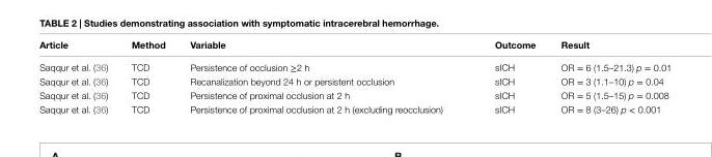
<table><thead><tr><td>Article</td><td>Method</td><td>variable</td><td>Outcome</td><td>Result</td></tr></thead><tbody><tr><td>Saqqur et al. (36)</td><td>TCD</td><td>Persistence of occlusion ≥2 h</td><td>sICH</td><td>OR = 6 (1.5–21.3) p = 0.01</td></tr><tr><td>Saqqur et al. (36)</td><td>TCD</td><td>Recanalization beyond 24 h or persistent occlusion</td><td>sICH</td><td>OR = 3 (1.1–10) p = 0.04</td></tr><tr><td>Saqqur et al. (36)</td><td>TCD</td><td>Persistence of proximal occlusion at 2 h</td><td>sICH</td><td>OR = 5 (1.5–15) p = 0.008</td></tr><tr><td>Saqqur et al. (36)</td><td>TCD</td><td>Persistence of proximal occlusion at 2 h (excluding reocclusion)</td><td>sICH</td><td>OR = 8 (3–26) p &lt; 0.001</td></tr></tbody></table>